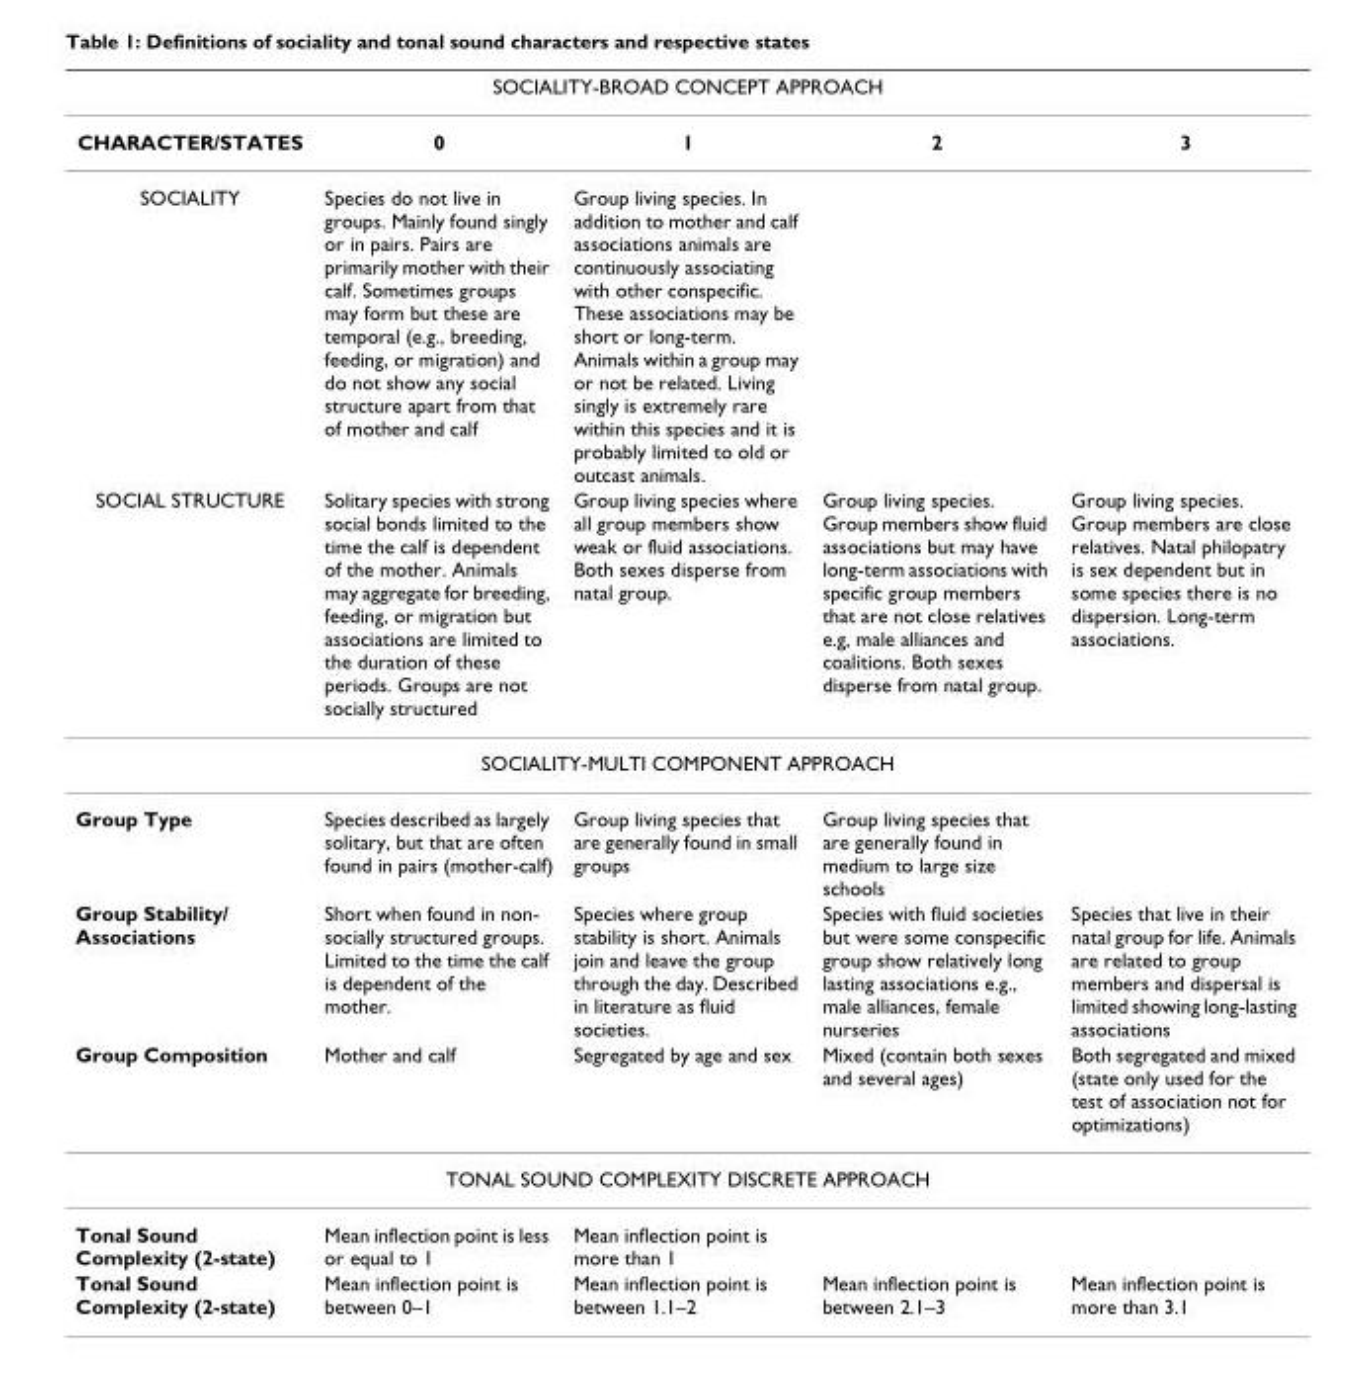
<table><thead><tr><td colspan="5">SOCIALITY-BROAD CONCEPT APPROACH</td></tr><tr><td>CHARACTER/STATES</td><td>0</td><td>1</td><td>2</td><td>3</td></tr></thead><tbody><tr><td>SOCIALITY</td><td>Species do not live in groups. Mainly found singly or in pairs. Pairs are primarily mother with their calf. Sometimes groups may form but these are temporal (e.g., breeding, feeding, or migration) and do not show any social structure apart from that of mother and calf</td><td>Group living species. In addition to mother and calf associations animals are continuously associating with other conspecific. These associations may be short or long-term. Animals within a group may or not be related. Living singly is extremely rare within this species and it is probably limited to old or outcast animals.</td><td></td><td></td></tr><tr><td>SOCIAL STRUCTURE</td><td>Solitary species with strong social bonds limited to the time the calf is dependent of the mother. Animals may aggregate for breeding, feeding, or migration but associations are limited to the duration of these periods. Groups are not socially structured</td><td>Group living species where all group members show weak or fluid associations. Both sexes disperse from natal group.</td><td>Group living species. Group members show fluid associations but may have long-term associations with specific group members that are not close relatives e.g, male alliances and coalitions. Both sexes disperse from natal group.</td><td>Group living species. Group members are close relatives. Natal philopatry is sex dependent but in some species there is no dispersion. Long-term associations.</td></tr><tr><td colspan="5">SOCIALITY-MULTI COMPONENT APPROACH</td></tr><tr><td>Group Type</td><td>Species described as largely solitary, but that are often found in pairs (mother-calf)</td><td>Group living species that are generally found in small groups</td><td>Group living species that are generally found in medium to large size schools</td><td></td></tr><tr><td>Group Stability/ Associations</td><td>Short when found in non- socially structured groups. Limited to the time the calf is dependent of the mother.</td><td>Species where group stability is short. Animals join and leave the group through the day. Described in literature as fluid societies.</td><td>Species with fluid societies but were some conspecific group show relatively long lasting associations e.g., male alliances, female nurseries</td><td>Species that live in their natal group for life. Animals are related to group members and dispersal is limited showing long-lasting associations</td></tr><tr><td>Group Composition</td><td>Mother and calf</td><td>Segregated by age and sex</td><td>Mixed (contain both sexes and several ages)</td><td>Both segregated and mixed (state only used for the test of association not for optimizations)</td></tr><tr><td colspan="5">TONAL SOUND COMPLEXITY DISCRETE APPROACH</td></tr><tr><td>Tonal Sound Complexity (2-state)</td><td>Mean inflection point is less or equal to 1</td><td>Mean inflection point is more than 1</td><td></td><td></td></tr><tr><td>Tonal Sound Complexity (2-state)</td><td>Mean inflection point is between 0–1</td><td>Mean inflection point is between 1.1–2</td><td>Mean inflection point is between 2.1–3</td><td>Mean inflection point is more than 3.1</td></tr></tbody></table>